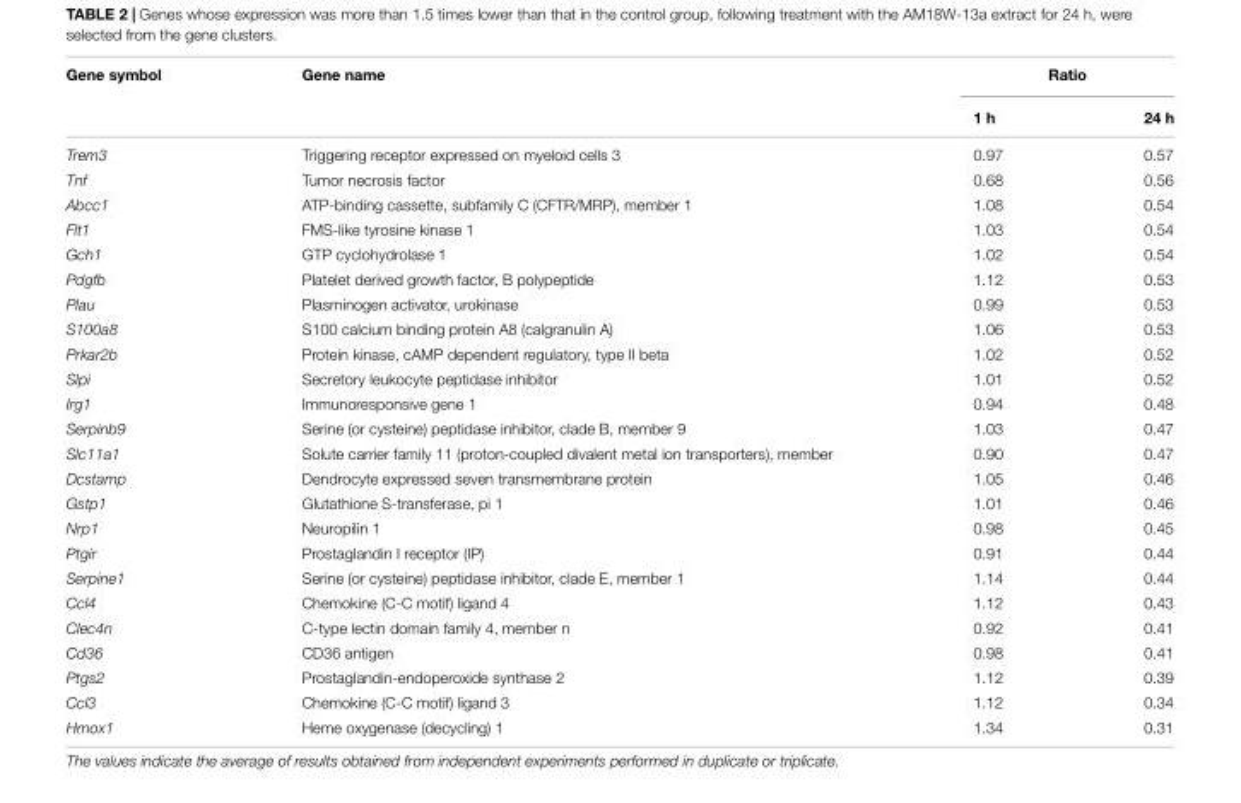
<table><thead><tr><td rowspan="2">Gene symbol</td><td rowspan="2">Gene name</td><td colspan="2">Ratio</td></tr><tr><td>1 h</td><td>24 h</td></tr></thead><tbody><tr><td>Trem3</td><td>Triggering receptor expressed on myeloid cells 3</td><td>0.97</td><td>0.57</td></tr><tr><td>Tnf</td><td>Tumor necrosis factor</td><td>0.68</td><td>0.56</td></tr><tr><td>Abcc1</td><td>ATP-binding cassette, subfamily C (CFTR/MRP), member 1</td><td>1.08</td><td>0.54</td></tr><tr><td>Flt1</td><td>FMS-like tyrosine kinase 1</td><td>1.03</td><td>0.54</td></tr><tr><td>Gch1</td><td>GTP cyclohydrolase 1</td><td>1.02</td><td>0.54</td></tr><tr><td>Pdgfb</td><td>Platelet derived growth factor, B polypeptide</td><td>1.12</td><td>0.53</td></tr><tr><td>Plau</td><td>Plasminogen activator, urokinase</td><td>0.99</td><td>0.53</td></tr><tr><td>S100a8</td><td>S100 calcium binding protein A8 (calgranulin A)</td><td>1.06</td><td>0.53</td></tr><tr><td>Prkar2b</td><td>Protein kinase, cAMP dependent regulatory, type II beta</td><td>1.02</td><td>0.52</td></tr><tr><td>Slpi</td><td>Secretory leukocyte peptidase inhibitor</td><td>1.01</td><td>0.52</td></tr><tr><td>Irg1</td><td>Immunoresponsive gene 1</td><td>0.94</td><td>0.48</td></tr><tr><td>Serpinb9</td><td>Serine (or cysteine) peptidase inhibitor, clade B, member 9</td><td>1.03</td><td>0.47</td></tr><tr><td>Slc11a1</td><td>Solute carrier family 11 (proton-coupled divalent metal ion transporters), member</td><td>0.90</td><td>0.47</td></tr><tr><td>Dcstamp</td><td>Dendrocyte expressed seven transmembrane protein</td><td>1.05</td><td>0.46</td></tr><tr><td>Gstp1</td><td>Glutathione S-transferase, pi 1</td><td>1.01</td><td>0.46</td></tr><tr><td>Nrp1</td><td>Neuropilin 1</td><td>0.98</td><td>0.45</td></tr><tr><td>Ptgir</td><td>Prostaglandin I receptor (IP)</td><td>0.91</td><td>0.44</td></tr><tr><td>Serpine1</td><td>Serine (or cysteine) peptidase inhibitor, clade E, member 1</td><td>1.14</td><td>0.44</td></tr><tr><td>Ccl4</td><td>Chemokine (C-C motif) ligand 4</td><td>1.12</td><td>0.43</td></tr><tr><td>Clec4n</td><td>C-type lectin domain family 4, member n</td><td>0.92</td><td>0.41</td></tr><tr><td>Cd36</td><td>CD36 antigen</td><td>0.98</td><td>0.41</td></tr><tr><td>Ptgs2</td><td>Prostaglandin-endoperoxide synthase 2</td><td>1.12</td><td>0.39</td></tr><tr><td>Ccl3</td><td>Chemokine (C-C motif) ligand 3</td><td>1.12</td><td>0.34</td></tr><tr><td>Hmox1</td><td>Heme oxygenase (decycling) 1</td><td>1.34</td><td>0.31</td></tr></tbody></table>